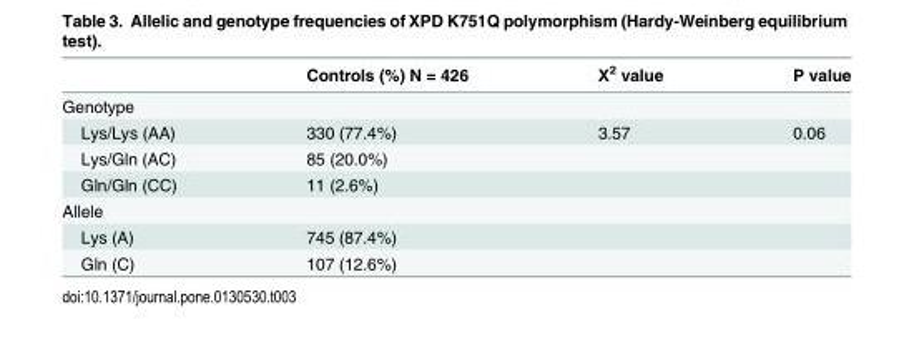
<table><thead><tr><td></td><td>Controls (%) N = 426</td><td>Χ<sup>2</sup> value</td><td>P value</td></tr></thead><tbody><tr><td colspan="4">Genotype</td></tr><tr><td>Lys/Lys (AA)</td><td>330 (77.4%)</td><td>3.57</td><td>0.06</td></tr><tr><td>Lys/Gln (AC)</td><td>85 (20.0%)</td><td></td><td></td></tr><tr><td>Gln/Gln (CC)</td><td>11 (2.6%)</td><td></td><td></td></tr><tr><td colspan="4">Allele</td></tr><tr><td>Lys (A)</td><td>745 (87.4%)</td><td></td><td></td></tr><tr><td>Gln (C)</td><td>107 (12.6%)</td><td></td><td></td></tr></tbody></table>